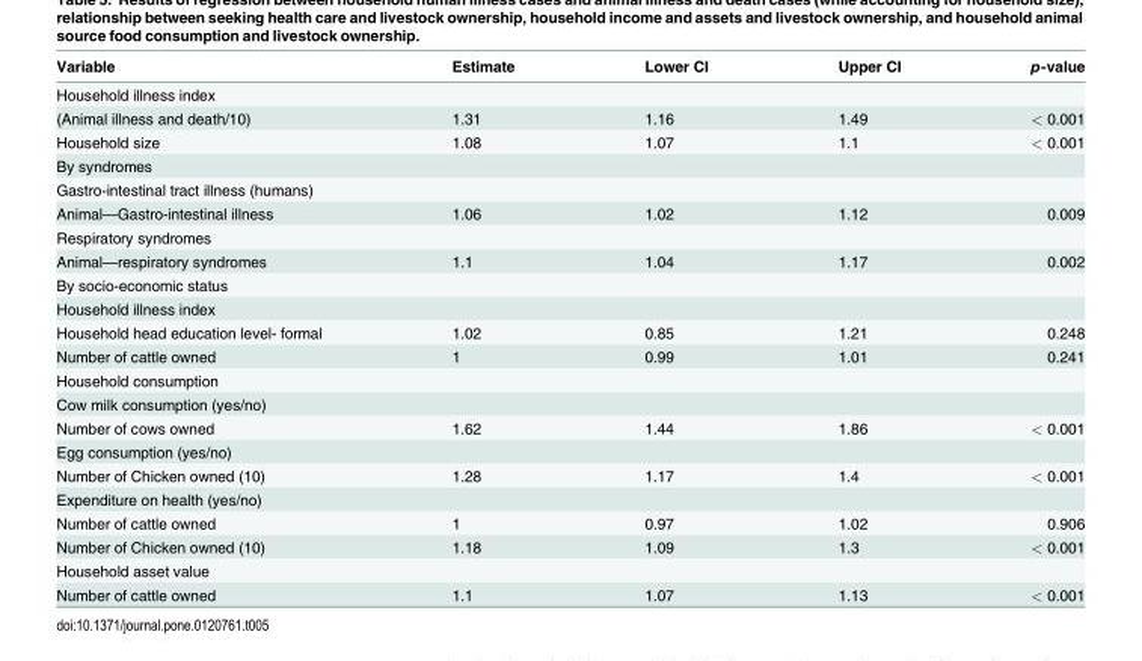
<table><thead><tr><td>Variable</td><td>Estimate</td><td>Lower CI</td><td>Upper CI</td><td>p-value</td></tr></thead><tbody><tr><td colspan="5">Household illness index</td></tr><tr><td>(Animal illness and death/10)</td><td>1.31</td><td>1.16</td><td>1.49</td><td>&lt; 0.001</td></tr><tr><td>Household size</td><td>1.08</td><td>1.07</td><td>1.1</td><td>&lt; 0.001</td></tr><tr><td colspan="5">By syndromes</td></tr><tr><td colspan="5">Gastro-intestinal tract illness (humans)</td></tr><tr><td>Animal—Gastro-intestinal illness</td><td>1.06</td><td>1.02</td><td>1.12</td><td>0.009</td></tr><tr><td colspan="5">Respiratory syndromes</td></tr><tr><td>Animal—respiratory syndromes</td><td>1.1</td><td>1.04</td><td>1.17</td><td>0.002</td></tr><tr><td colspan="5">By socio-economic status</td></tr><tr><td colspan="5">Household illness index</td></tr><tr><td>Household head education level- formal</td><td>1.02</td><td>0.85</td><td>1.21</td><td>0.248</td></tr><tr><td>Number of cattle owned</td><td>1</td><td>0.99</td><td>1.01</td><td>0.241</td></tr><tr><td colspan="5">Household consumption</td></tr><tr><td colspan="5">Cow milk consumption (yes/no)</td></tr><tr><td>Number of cows owned</td><td>1.62</td><td>1.44</td><td>1.86</td><td>&lt; 0.001</td></tr><tr><td colspan="5">Egg consumption (yes/no)</td></tr><tr><td>Number of Chicken owned (10)</td><td>1.28</td><td>1.17</td><td>1.4</td><td>&lt; 0.001</td></tr><tr><td colspan="5">Expenditure on health (yes/no)</td></tr><tr><td>Number of cattle owned</td><td>1</td><td>0.97</td><td>1.02</td><td>0.906</td></tr><tr><td>Number of Chicken owned (10)</td><td>1.18</td><td>1.09</td><td>1.3</td><td>&lt; 0.001</td></tr><tr><td colspan="5">Household asset value</td></tr><tr><td>Number of cattle owned</td><td>1.1</td><td>1.07</td><td>1.13</td><td>&lt; 0.001</td></tr></tbody></table>